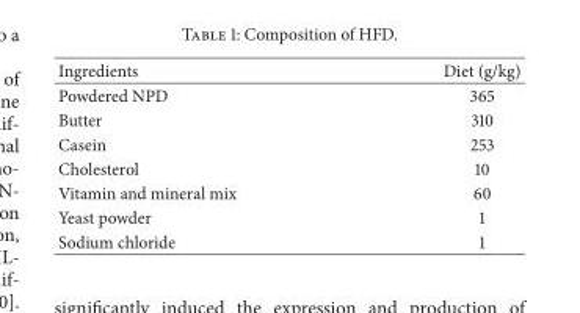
<table><thead><tr><td>Ingredients</td><td>Diet (g/kg)</td></tr></thead><tbody><tr><td>Powdered NPD</td><td>365</td></tr><tr><td>Butter</td><td>310</td></tr><tr><td>Casein</td><td>253</td></tr><tr><td>Cholesterol</td><td>10</td></tr><tr><td>Vitamin and mineral mix</td><td>60</td></tr><tr><td>Yeast powder</td><td>1</td></tr><tr><td>Sodium chloride</td><td>1</td></tr></tbody></table>